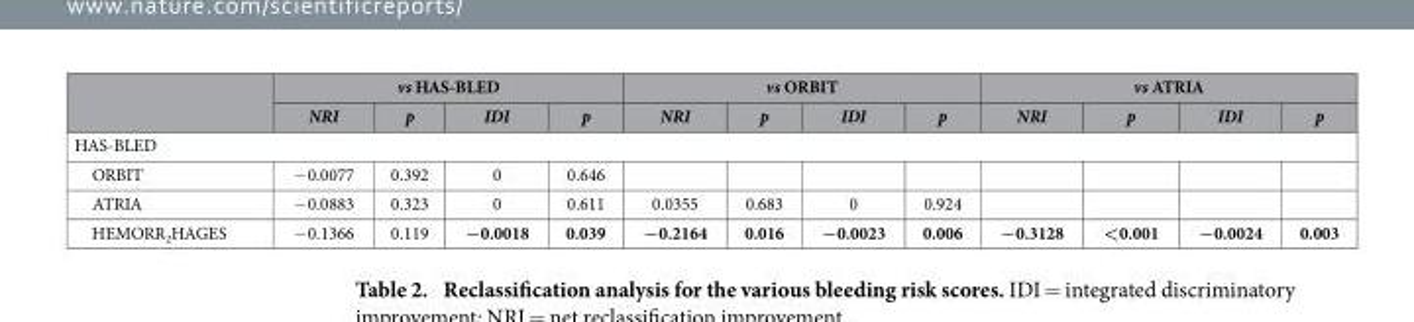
<table><thead><tr><td rowspan="2"></td><td colspan="4">vs HAS-BLED</td><td colspan="4">vs ORBIT</td><td colspan="4">vs ATRIA</td></tr><tr><td>NRI</td><td>p</td><td>IDI</td><td>p</td><td>NRI</td><td>p</td><td>IDI</td><td>p</td><td>NRI</td><td>p</td><td>IDI</td><td>p</td></tr></thead><tbody><tr><td colspan="13">HAS-BLED</td></tr><tr><td>ORBIT</td><td>− 0.0077</td><td>0.392</td><td>0</td><td>0.646</td><td></td><td></td><td></td><td></td><td></td><td></td><td></td><td></td></tr><tr><td>ATRIA</td><td>− 0.0883</td><td>0.323</td><td>0</td><td>0.611</td><td>0.0355</td><td>0.683</td><td>0</td><td>0.924</td><td></td><td></td><td></td><td></td></tr><tr><td>HEMORR<sub>2</sub>HAGES</td><td>− 0.1366</td><td>0.119</td><td>−0.0018</td><td>0.039</td><td>−0.2164</td><td>0.016</td><td>−0.0023</td><td>0.006</td><td>−0.3128</td><td>&lt;0.001</td><td>−0.0024</td><td>0.003</td></tr></tbody></table>